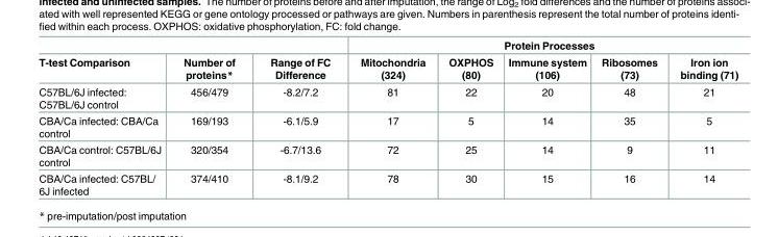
<table><thead><tr><td rowspan="2">T-test Comparison</td><td rowspan="2">Number of proteins*</td><td rowspan="2">Range of FC Difference</td><td colspan="5">Protein Processes</td></tr><tr><td>Mitochondria (324)</td><td>OXPHOS (80)</td><td>Immune system (106)</td><td>Ribosomes (73)</td><td>Iron ion binding (71)</td></tr></thead><tbody><tr><td>C57BL/6J infected: C57BL/6J control</td><td>456/479</td><td>-8.2/7.2</td><td>81</td><td>22</td><td>20</td><td>48</td><td>21</td></tr><tr><td>CBA/Ca infected: CBA/Ca control</td><td>169/193</td><td>-6.1/5.9</td><td>17</td><td>5</td><td>14</td><td>35</td><td>5</td></tr><tr><td>CBA/Ca control: C57BL/6J control</td><td>320/354</td><td>-6.7/13.6</td><td>72</td><td>25</td><td>14</td><td>9</td><td>11</td></tr><tr><td>CBA/Ca infected: C57BL/ 6J infected</td><td>374/410</td><td>-8.1/9.2</td><td>78</td><td>30</td><td>15</td><td>16</td><td>14</td></tr></tbody></table>